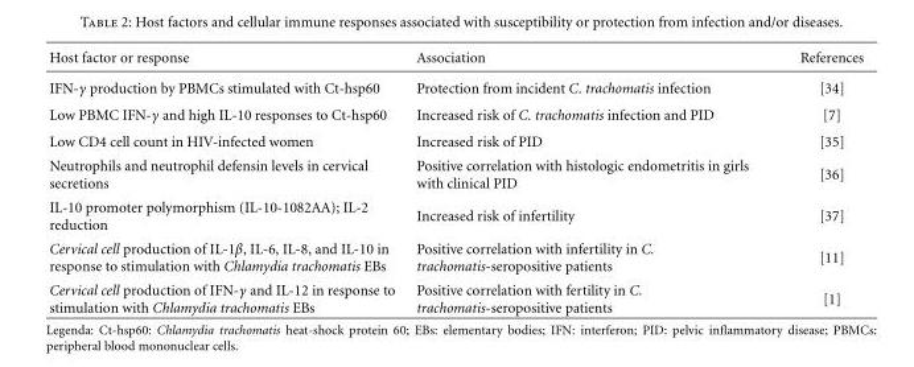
<table><thead><tr><td>Host factor or response</td><td>Association</td><td>References</td></tr></thead><tbody><tr><td>IFN-γ production by PBMCs stimulated with Ct-hsp60</td><td>Protection from incident C. trachomatis infection</td><td>[34]</td></tr><tr><td>Low PBMC IFN-γ and high IL-10 responses to Ct-hsp60</td><td>Increased risk of C. trachomatis infection and PID</td><td>[7]</td></tr><tr><td>Low CD4 cell count in HIV-infected women</td><td>Increased risk of PID</td><td>[35]</td></tr><tr><td>Neutrophils and neutrophil defensin levels in cervical secretions</td><td>Positive correlation with histologic endometritis in girls with clinical PID</td><td>[36]</td></tr><tr><td>IL-10 promoter polymorphism (IL-10-1082AA); IL-2 reduction</td><td>Increased risk of infertility</td><td>[37]</td></tr><tr><td>Cervical cell production of IL-1β, IL-6, IL-8, and IL-10 in response to stimulation with Chlamydia trachomatis EBs</td><td>Positive correlation with infertility in C. trachomatis-seropositive patients</td><td>[11]</td></tr><tr><td>Cervical cell production of IFN-γ and IL-12 in response to stimulation with Chlamydia trachomatis EBs</td><td>Positive correlation with fertility in C. trachomatis-seropositive patients</td><td>[1]</td></tr></tbody></table>